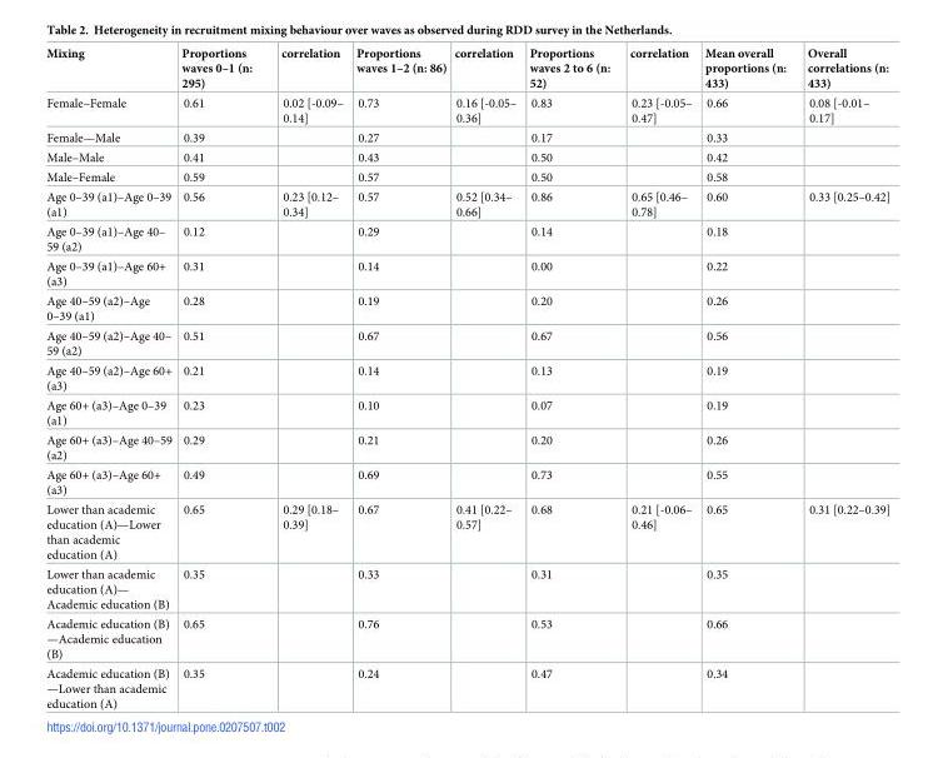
<table><thead><tr><td>Mixing</td><td>Proportions waves 0–1 (n: 295)</td><td>correlation</td><td>Proportions waves 1–2 (n: 86)</td><td>correlation</td><td>Proportions waves 2 to 6 (n: 52)</td><td>correlation</td><td>Mean overall proportions (n: 433)</td><td>Overall correlations (n: 433)</td></tr></thead><tbody><tr><td>Female–Female</td><td>0.61</td><td>0.02 [-0.09– 0.14]</td><td>0.73</td><td>0.16 [-0.05– 0.36]</td><td>0.83</td><td>0.23 [-0.05– 0.47]</td><td>0.66</td><td>0.08 [-0.01– 0.17]</td></tr><tr><td>Female—Male</td><td>0.39</td><td></td><td>0.27</td><td></td><td>0.17</td><td></td><td>0.33</td><td></td></tr><tr><td>Male–Male</td><td>0.41</td><td></td><td>0.43</td><td></td><td>0.50</td><td></td><td>0.42</td><td></td></tr><tr><td>Male–Female</td><td>0.59</td><td></td><td>0.57</td><td></td><td>0.50</td><td></td><td>0.58</td><td></td></tr><tr><td>Age 0–39 (a1)–Age 0–39 (a1)</td><td>0.56</td><td>0.23 [0.12– 0.34]</td><td>0.57</td><td>0.52 [0.34– 0.66]</td><td>0.86</td><td>0.65 [0.46– 0.78]</td><td>0.60</td><td>0.33 [0.25–0.42]</td></tr><tr><td>Age 0–39 (a1)–Age 40– 59 (a2)</td><td>0.12</td><td></td><td>0.29</td><td></td><td>0.14</td><td></td><td>0.18</td><td></td></tr><tr><td>Age 0–39 (a1)–Age 60+ (a3)</td><td>0.31</td><td></td><td>0.14</td><td></td><td>0.00</td><td></td><td>0.22</td><td></td></tr><tr><td>Age 40–59 (a2)–Age 0–39 (a1)</td><td>0.28</td><td></td><td>0.19</td><td></td><td>0.20</td><td></td><td>0.26</td><td></td></tr><tr><td>Age 40–59 (a2)–Age 40– 59 (a2)</td><td>0.51</td><td></td><td>0.67</td><td></td><td>0.67</td><td></td><td>0.56</td><td></td></tr><tr><td>Age 40–59 (a2)–Age 60+ (a3)</td><td>0.21</td><td></td><td>0.14</td><td></td><td>0.13</td><td></td><td>0.19</td><td></td></tr><tr><td>Age 60+ (a3)–Age 0–39 (a1)</td><td>0.23</td><td></td><td>0.10</td><td></td><td>0.07</td><td></td><td>0.19</td><td></td></tr><tr><td>Age 60+ (a3)–Age 40–59 (a2)</td><td>0.29</td><td></td><td>0.21</td><td></td><td>0.20</td><td></td><td>0.26</td><td></td></tr><tr><td>Age 60+ (a3)–Age 60+ (a3)</td><td>0.49</td><td></td><td>0.69</td><td></td><td>0.73</td><td></td><td>0.55</td><td></td></tr><tr><td>Lower than academic education (A)—Lower than academic education (A)</td><td>0.65</td><td>0.29 [0.18– 0.39]</td><td>0.67</td><td>0.41 [0.22– 0.57]</td><td>0.68</td><td>0.21 [-0.06– 0.46]</td><td>0.65</td><td>0.31 [0.22–0.39]</td></tr><tr><td>Lower than academic education (A)— Academic education (B)</td><td>0.35</td><td></td><td>0.33</td><td></td><td>0.31</td><td></td><td>0.35</td><td></td></tr><tr><td>Academic education (B) —Academic education (B)</td><td>0.65</td><td></td><td>0.76</td><td></td><td>0.53</td><td></td><td>0.66</td><td></td></tr><tr><td>Academic education (B) —Lower than academic education (A)</td><td>0.35</td><td></td><td>0.24</td><td></td><td>0.47</td><td></td><td>0.34</td><td></td></tr></tbody></table>